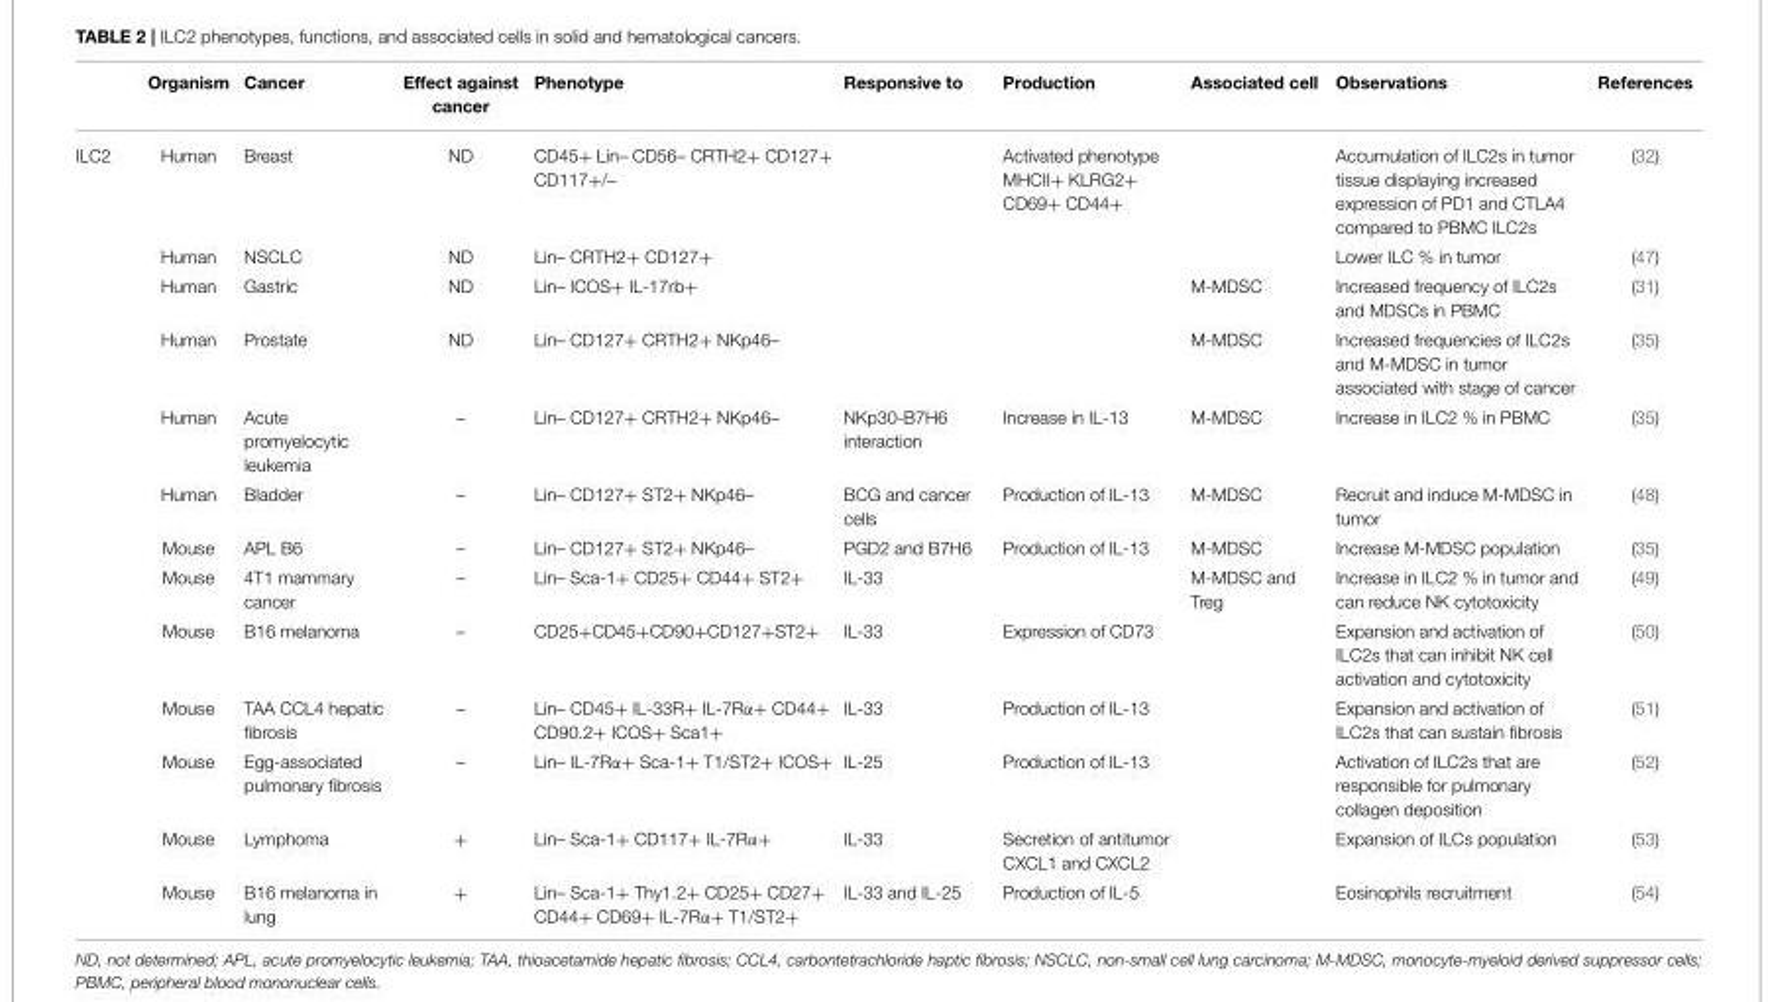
<table><thead><tr><td></td><td>Organism</td><td>Cancer</td><td>Effect against cancer</td><td>Phenotype</td><td>Responsive to</td><td>Production</td><td>Associated cell</td><td>Observations</td><td>References</td></tr></thead><tbody><tr><td rowspan="13">ILC2</td><td>Human</td><td>Breast</td><td>ND</td><td>CD45+ Lin– CD56– CRTH2+ CD127+ CD117+/–</td><td></td><td>Activated phenotype MHCII+ KLRG2+ CD69+ CD44+</td><td></td><td>Accumulation of ILC2s in tumor tissue displaying increased expression of PD1 and CTLA4 compared to PBMC ILC2s</td><td>(32)</td></tr><tr><td>Human</td><td>NSCLC</td><td>ND</td><td>Lin– CRTH2+ CD127+</td><td></td><td></td><td></td><td>Lower ILC % in tumor</td><td>(47)</td></tr><tr><td>Human</td><td>Gastric</td><td>ND</td><td>Lin– ICOS+ IL-17rb+</td><td></td><td></td><td>M-MDSC</td><td>Increased frequency of ILC2s and MDSCs in PBMC</td><td>(31)</td></tr><tr><td>Human</td><td>Prostate</td><td>ND</td><td>Lin– CD127+ CRTH2+ NKp46–</td><td></td><td></td><td>M-MDSC</td><td>Increased frequencies of ILC2s and M-MDSC in tumor associated with stage of cancer</td><td>(35)</td></tr><tr><td>Human</td><td>Acute promyelocytic leukemia</td><td>–</td><td>Lin– CD127+ CRTH2+ NKp46–</td><td>NKp30-B7H6 interaction</td><td>Increase in IL-13</td><td>M-MDSC</td><td>Increase in ILC2 % in PBMC</td><td>(35)</td></tr><tr><td>Human</td><td>Bladder</td><td>–</td><td>Lin– CD127+ ST2+ NKp46–</td><td>BCG and cancer cells</td><td>Production of IL-13</td><td>M-MDSC</td><td>Recruit and induce M-MDSC in tumor</td><td>(48)</td></tr><tr><td>Mouse</td><td>APL B6</td><td>–</td><td>Lin– CD127+ ST2+ NKp46–</td><td>PGD2 and B7H6</td><td>Production of IL-13</td><td>M-MDSC</td><td>Increase M-MDSC population</td><td>(35)</td></tr><tr><td>Mouse</td><td>4T1 mammary cancer</td><td>–</td><td>Lin– Sca-1+ CD25+ CD44+ ST2+</td><td>IL-33</td><td></td><td>M-MDSC and Treg</td><td>Increase in ILC2 % in tumor and can reduce NK cytotoxicity</td><td>(49)</td></tr><tr><td>Mouse</td><td>B16 melanoma</td><td>–</td><td>CD25+CD45+CD90+CD127+ST2+</td><td>IL-33</td><td>Expression of CD73</td><td></td><td>Expansion and activation of ILC2s that can inhibit NK cell activation and cytotoxicity</td><td>(50)</td></tr><tr><td>Mouse</td><td>TAA CCL4 hepatic fibrosis</td><td>–</td><td>Lin– CD45+ IL-33R+ IL-7Rα+ CD44+ CD90.2+ ICOS+ Sca1+</td><td>IL-33</td><td>Production of IL-13</td><td></td><td>Expansion and activation of ILC2s that can sustain fibrosis</td><td>(51)</td></tr><tr><td>Mouse</td><td>Egg-associated pulmonary fibrosis</td><td>–</td><td>Lin– IL-7Rα+ Sca-1+ T1/ST2+ ICOS+</td><td>IL-25</td><td>Production of IL-13</td><td></td><td>Activation of ILC2s that are responsible for pulmonary collagen deposition</td><td>(52)</td></tr><tr><td>Mouse</td><td>Lymphoma</td><td>+</td><td>Lin– Sca-1+ CD117+ IL-7Rα+</td><td>IL-33</td><td>Secretion of antitumor CXCL1 and CXCL2</td><td></td><td>Expansion of ILCs population</td><td>(53)</td></tr><tr><td>Mouse</td><td>B16 melanoma in lung</td><td>+</td><td>Lin– Sca-1+ Thy1.2+ CD25+ CD27+ CD44+ CD69+ IL-7Rα+ T1/ST2+</td><td>IL-33 and IL-25</td><td>Production of IL-5</td><td></td><td>Eosinophils recruitment</td><td>(54)</td></tr></tbody></table>